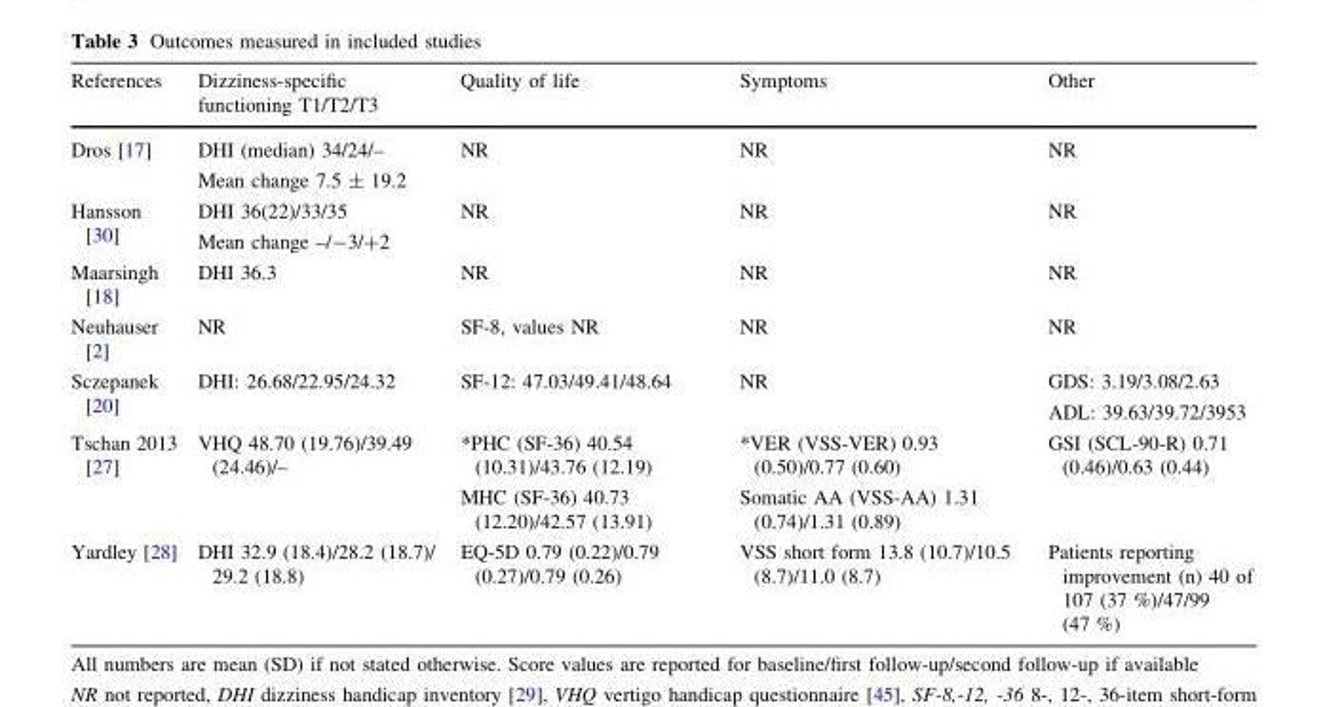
<table><thead><tr><td>References</td><td>Dizziness-specific functioning T1/T2/T3</td><td>Quality of life</td><td>Symptoms</td><td>Other</td></tr></thead><tbody><tr><td>Dros [17]</td><td>DHI (median) 34/24/– Mean change 7.5 ± 19.2</td><td>NR</td><td>NR</td><td>NR</td></tr><tr><td>Hansson [30]</td><td>DHI 36(22)/33/35 Mean change –/-3/+2</td><td>NR</td><td>NR</td><td>NR</td></tr><tr><td>Maarsingh [18]</td><td>DHI 36.3</td><td>NR</td><td>NR</td><td>NR</td></tr><tr><td>Neuhauser [2]</td><td>NR</td><td>SF-8, values NR</td><td>NR</td><td>NR</td></tr><tr><td>Sczepanek [20]</td><td>DHI: 26.68/22.95/24.32</td><td>SF-12: 47.03/49.41/48.64</td><td>NR</td><td>GDS: 3.19/3.08/2.63 ADL: 39.63/39.72/3953</td></tr><tr><td>Tschan 2013 [27]</td><td>VHQ 48.70 (19.76)/39.49 (24.46)/–</td><td>*PHC (SF-36) 40.54 (10.31)/43.76 (12.19) MHC (SF-36) 40.73 (12.20)/42.57 (13.91)</td><td>*VER (VSS-VER) 0.93 (0.50)/0.77 (0.60) Somatic AA (VSS-AA) 1.31 (0.74)/1.31 (0.89)</td><td>GSI (SCL-90-R) 0.71 (0.46)/0.63 (0.44)</td></tr><tr><td>Yardley [28]</td><td>DHI 32.9 (18.4)/28.2 (18.7)/ 29.2 (18.8)</td><td>EQ-5D 0.79 (0.22)/0.79 (0.27)/0.79 (0.26)</td><td>VSS short form 13.8 (10.7)/10.5 (8.7)/11.0 (8.7)</td><td>Patients reporting improvement (n) 40 of 107 (37 %)/47/99 (47 %)</td></tr></tbody></table>